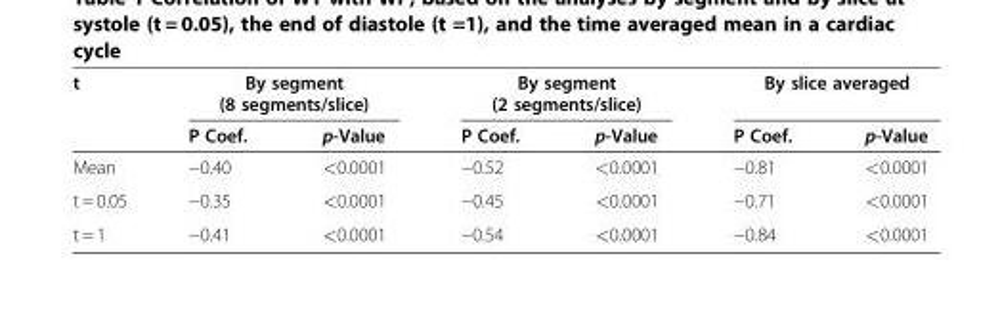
<table><thead><tr><td rowspan="2">t</td><td colspan="2">By segment (8 segments/slice)</td><td colspan="2">By segment (2 segments/slice)</td><td colspan="2">By slice averaged</td></tr><tr><td>P Coef.</td><td>p-Value</td><td>P Coef.</td><td>p-Value</td><td>P Coef.</td><td>p-Value</td></tr></thead><tbody><tr><td>Mean</td><td>−0.40</td><td>&lt;0.0001</td><td>−0.52</td><td>&lt;0.0001</td><td>−0.81</td><td>&lt;0.0001</td></tr><tr><td>t = 0.05</td><td>−0.35</td><td>&lt;0.0001</td><td>−0.45</td><td>&lt;0.0001</td><td>−0.71</td><td>&lt;0.0001</td></tr><tr><td>t = 1</td><td>−0.41</td><td>&lt;0.0001</td><td>−0.54</td><td>&lt;0.0001</td><td>−0.84</td><td>&lt;0.0001</td></tr></tbody></table>